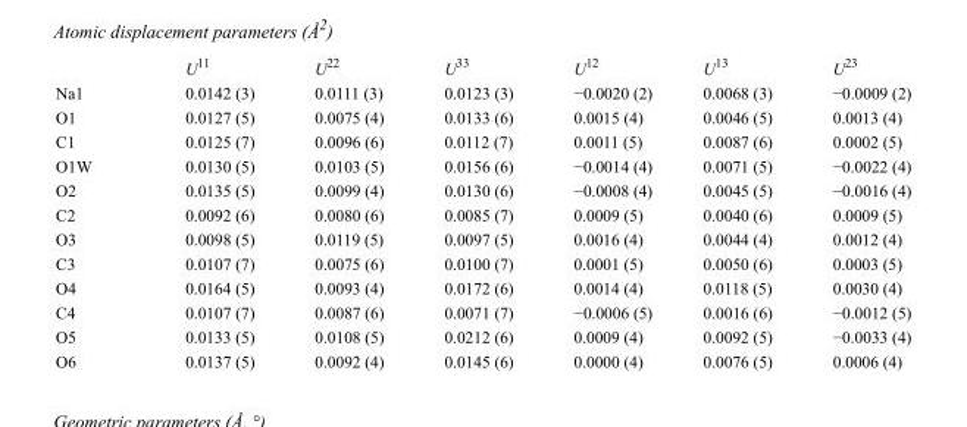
<table><thead><tr><td></td><td>U<sup>11</sup></td><td>U<sup>22</sup></td><td>U<sup>33</sup></td><td>U<sup>12</sup></td><td>U<sup>13</sup></td><td>U<sup>23</sup></td></tr></thead><tbody><tr><td>Na1</td><td>0.0142 (3)</td><td>0.0111 (3)</td><td>0.0123 (3)</td><td>−0.0020 (2)</td><td>0.0068 (3)</td><td>−0.0009 (2)</td></tr><tr><td>O1</td><td>0.0127 (5)</td><td>0.0075 (4)</td><td>0.0133 (6)</td><td>0.0015 (4)</td><td>0.0046 (5)</td><td>0.0013 (4)</td></tr><tr><td>C1</td><td>0.0125 (7)</td><td>0.0096 (6)</td><td>0.0112 (7)</td><td>0.0011 (5)</td><td>0.0087 (6)</td><td>0.0002 (5)</td></tr><tr><td>O1W</td><td>0.0130 (5)</td><td>0.0103 (5)</td><td>0.0156 (6)</td><td>−0.0014 (4)</td><td>0.0071 (5)</td><td>−0.0022 (4)</td></tr><tr><td>O2</td><td>0.0135 (5)</td><td>0.0099 (4)</td><td>0.0130 (6)</td><td>−0.0008 (4)</td><td>0.0045 (5)</td><td>−0.0016 (4)</td></tr><tr><td>C2</td><td>0.0092 (6)</td><td>0.0080 (6)</td><td>0.0085 (7)</td><td>0.0009 (5)</td><td>0.0040 (6)</td><td>0.0009 (5)</td></tr><tr><td>O3</td><td>0.0098 (5)</td><td>0.0119 (5)</td><td>0.0097 (5)</td><td>0.0016 (4)</td><td>0.0044 (4)</td><td>0.0012 (4)</td></tr><tr><td>C3</td><td>0.0107 (7)</td><td>0.0075 (6)</td><td>0.0100 (7)</td><td>0.0001 (5)</td><td>0.0050 (6)</td><td>0.0003 (5)</td></tr><tr><td>O4</td><td>0.0164 (5)</td><td>0.0093 (4)</td><td>0.0172 (6)</td><td>0.0014 (4)</td><td>0.0118 (5)</td><td>0.0030 (4)</td></tr><tr><td>C4</td><td>0.0107 (7)</td><td>0.0087 (6)</td><td>0.0071 (7)</td><td>−0.0006 (5)</td><td>0.0016 (6)</td><td>−0.0012 (5)</td></tr><tr><td>O5</td><td>0.0133 (5)</td><td>0.0108 (5)</td><td>0.0212 (6)</td><td>0.0009 (4)</td><td>0.0092 (5)</td><td>−0.0033 (4)</td></tr><tr><td>O6</td><td>0.0137 (5)</td><td>0.0092 (4)</td><td>0.0145 (6)</td><td>0.0000 (4)</td><td>0.0076 (5)</td><td>0.0006 (4)</td></tr></tbody></table>